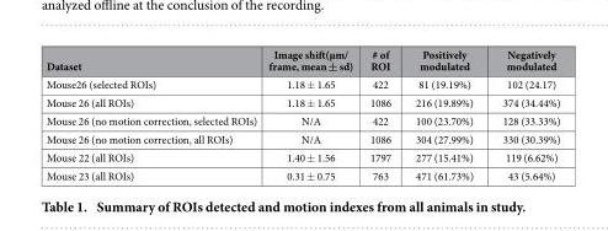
<table><thead><tr><td>Dataset</td><td>Image shift(µm/ frame, mean ± sd)</td><td># of ROI</td><td>Positively modulated</td><td>Negatively modulated</td></tr></thead><tbody><tr><td>Mouse26 (selected ROIs)</td><td>1.18 ± 1.65</td><td>422</td><td>81 (19.19%)</td><td>102 (24.17)</td></tr><tr><td>Mouse 26 (all ROIs)</td><td>1.18 ± 1.65</td><td>1086</td><td>216 (19.89%)</td><td>374 (34.44%)</td></tr><tr><td>Mouse 26 (no motion correction, selected ROIs)</td><td>N/A</td><td>422</td><td>100 (23.70%)</td><td>128 (33.33%)</td></tr><tr><td>Mouse 26 (no motion correction, all ROIs)</td><td>N/A</td><td>1086</td><td>304 (27.99%)</td><td>330 (30.39%)</td></tr><tr><td>Mouse 22 (all ROIs)</td><td>1.40 ± 1.56</td><td>1797</td><td>277 (15.41%)</td><td>119 (6.62%)</td></tr><tr><td>Mouse 23 (all ROIs)</td><td>0.31 ± 0.75</td><td>763</td><td>471 (61.73%)</td><td>43 (5.64%)</td></tr></tbody></table>